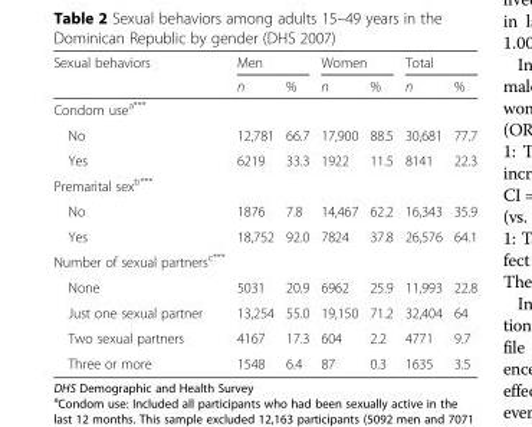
<table><thead><tr><td rowspan="2">Sexual behaviors</td><td colspan="2">Men</td><td colspan="2">Women</td><td colspan="2">Total</td></tr><tr><td>n</td><td>%</td><td>n</td><td>%</td><td>n</td><td>%</td></tr></thead><tbody><tr><td colspan="7">Condom use<sup>a***</sup></td></tr><tr><td>No</td><td>12,781</td><td>66.7</td><td>17,900</td><td>88.5</td><td>30,681</td><td>77.7</td></tr><tr><td>Yes</td><td>6219</td><td>33.3</td><td>1922</td><td>11.5</td><td>8141</td><td>22.3</td></tr><tr><td colspan="7">Premarital sex<sup>b***</sup></td></tr><tr><td>No</td><td>1876</td><td>7.8</td><td>14,467</td><td>62.2</td><td>16,343</td><td>35.9</td></tr><tr><td>Yes</td><td>18,752</td><td>92.0</td><td>7824</td><td>37.8</td><td>26,576</td><td>64.1</td></tr><tr><td colspan="7">Number of sexual partners<sup>c***</sup></td></tr><tr><td>None</td><td>5031</td><td>20.9</td><td>6962</td><td>25.9</td><td>11,993</td><td>22.8</td></tr><tr><td>Just one sexual partner</td><td>13,254</td><td>55.0</td><td>19,150</td><td>71.2</td><td>32,404</td><td>64</td></tr><tr><td>Two sexual partners</td><td>4167</td><td>17.3</td><td>604</td><td>2.2</td><td>4771</td><td>9.7</td></tr><tr><td>Three or more</td><td>1548</td><td>6.4</td><td>87</td><td>0.3</td><td>1635</td><td>3.5</td></tr></tbody></table>